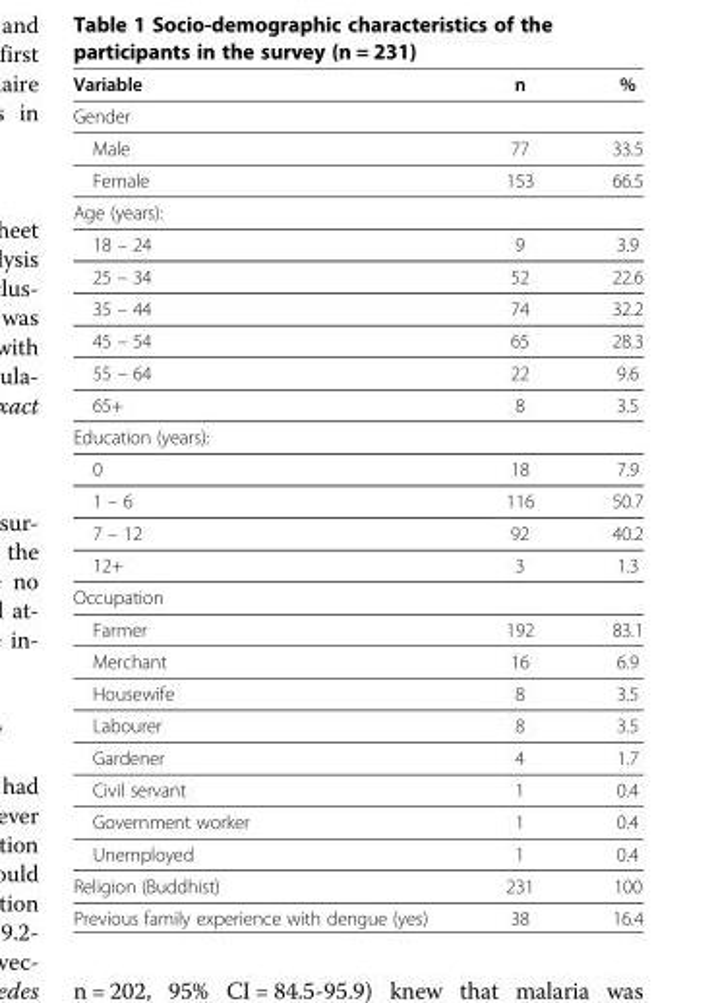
<table><thead><tr><td>Variable</td><td>n</td><td>%</td></tr></thead><tbody><tr><td colspan="3">Gender</td></tr><tr><td>Male</td><td>77</td><td>33.5</td></tr><tr><td>Female</td><td>153</td><td>66.5</td></tr><tr><td colspan="3">Age (years):</td></tr><tr><td>18 – 24</td><td>9</td><td>3.9</td></tr><tr><td>25 – 34</td><td>52</td><td>22.6</td></tr><tr><td>35 – 44</td><td>74</td><td>32.2</td></tr><tr><td>45 – 54</td><td>65</td><td>28.3</td></tr><tr><td>55 – 64</td><td>22</td><td>9.6</td></tr><tr><td>65+</td><td>8</td><td>3.5</td></tr><tr><td colspan="3">Education (years):</td></tr><tr><td>0</td><td>18</td><td>7.9</td></tr><tr><td>1 – 6</td><td>116</td><td>50.7</td></tr><tr><td>7 – 12</td><td>92</td><td>40.2</td></tr><tr><td>12+</td><td>3</td><td>1.3</td></tr><tr><td colspan="3">Occupation</td></tr><tr><td>Farmer</td><td>192</td><td>83.1</td></tr><tr><td>Merchant</td><td>16</td><td>6.9</td></tr><tr><td>Housewife</td><td>8</td><td>3.5</td></tr><tr><td>Labourer</td><td>8</td><td>3.5</td></tr><tr><td>Gardener</td><td>4</td><td>1.7</td></tr><tr><td>Civil servant</td><td>1</td><td>0.4</td></tr><tr><td>Government worker</td><td>1</td><td>0.4</td></tr><tr><td>Unemployed</td><td>1</td><td>0.4</td></tr><tr><td>Religion (Buddhist)</td><td>231</td><td>100</td></tr><tr><td>Previous family experience with dengue (yes)</td><td>38</td><td>16.4</td></tr></tbody></table>